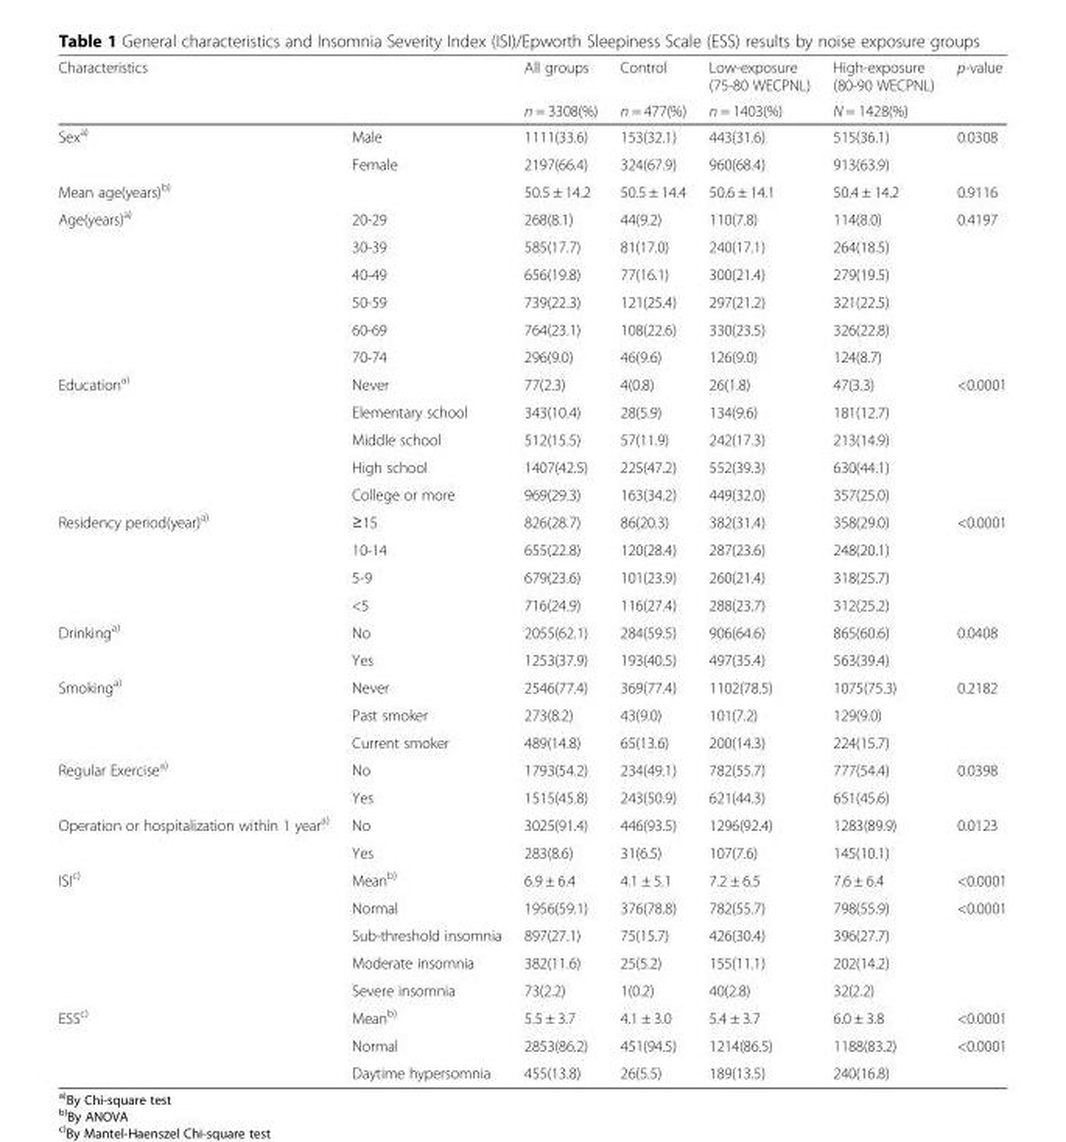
<table><thead><tr><td rowspan="2">Characteristics</td><td rowspan="2"></td><td rowspan="2">All groups n = 3308(%)</td><td rowspan="2">Control n = 477(%)</td><td rowspan="2">Low-exposure (75-80 WECPNL) n = 1403(%)</td><td rowspan="2">High-exposure (80-90 WECPNL) N = 1428(%)</td><td rowspan="2">p-value</td></tr><tr></tr></thead><tbody><tr><td rowspan="2">Sex<sup>a)</sup></td><td>Male</td><td>1111(33.6)</td><td>153(32.1)</td><td>443(31.6)</td><td>515(36.1)</td><td>0.0308</td></tr><tr><td>Female</td><td>2197(66.4)</td><td>324(67.9)</td><td>960(68.4)</td><td>913(63.9)</td><td></td></tr><tr><td>Mean age(years)<sup>b)</sup></td><td></td><td>50.5 ± 14.2</td><td>50.5 ± 14.4</td><td>50.6 ± 14.1</td><td>50.4 ± 14.2</td><td>0.9116</td></tr><tr><td rowspan="6">Age(years)<sup>a)</sup></td><td>20-29</td><td>268(8.1)</td><td>44(9.2)</td><td>110(7.8)</td><td>114(8.0)</td><td>0.4197</td></tr><tr><td>30-39</td><td>585(17.7)</td><td>81(17.0)</td><td>240(17.1)</td><td>264(18.5)</td><td></td></tr><tr><td>40-49</td><td>656(19.8)</td><td>77(16.1)</td><td>300(21.4)</td><td>279(19.5)</td><td></td></tr><tr><td>50-59</td><td>739(22.3)</td><td>121(25.4)</td><td>297(21.2)</td><td>321(22.5)</td><td></td></tr><tr><td>60-69</td><td>764(23.1)</td><td>108(22.6)</td><td>330(23.5)</td><td>326(22.8)</td><td></td></tr><tr><td>70-74</td><td>296(9.0)</td><td>46(9.6)</td><td>126(9.0)</td><td>124(8.7)</td><td></td></tr><tr><td rowspan="5">Education<sup>a)</sup></td><td>Never</td><td>77(2.3)</td><td>4(0.8)</td><td>26(1.8)</td><td>47(3.3)</td><td>&lt;0.0001</td></tr><tr><td>Elementary school</td><td>343(10.4)</td><td>28(5.9)</td><td>134(9.6)</td><td>181(12.7)</td><td></td></tr><tr><td>Middle school</td><td>512(15.5)</td><td>57(11.9)</td><td>242(17.3)</td><td>213(14.9)</td><td></td></tr><tr><td>High school</td><td>1407(42.5)</td><td>225(47.2)</td><td>552(39.3)</td><td>630(44.1)</td><td></td></tr><tr><td>College or more</td><td>969(29.3)</td><td>163(34.2)</td><td>449(32.0)</td><td>357(25.0)</td><td></td></tr><tr><td rowspan="4">Residency period(year)<sup>a)</sup></td><td>≥15</td><td>826(28.7)</td><td>86(20.3)</td><td>382(31.4)</td><td>358(29.0)</td><td>&lt;0.0001</td></tr><tr><td>10-14</td><td>655(22.8)</td><td>120(28.4)</td><td>287(23.6)</td><td>248(20.1)</td><td></td></tr><tr><td>5-9</td><td>679(23.6)</td><td>101(23.9)</td><td>260(21.4)</td><td>318(25.7)</td><td></td></tr><tr><td>&lt;5</td><td>716(24.9)</td><td>116(27.4)</td><td>288(23.7)</td><td>312(25.2)</td><td></td></tr><tr><td rowspan="2">Drinking<sup>a)</sup></td><td>No</td><td>2055(62.1)</td><td>284(59.5)</td><td>906(64.6)</td><td>865(60.6)</td><td>0.0408</td></tr><tr><td>Yes</td><td>1253(37.9)</td><td>193(40.5)</td><td>497(35.4)</td><td>563(39.4)</td><td></td></tr><tr><td rowspan="3">Smoking<sup>a)</sup></td><td>Never</td><td>2546(77.4)</td><td>369(77.4)</td><td>1102(78.5)</td><td>1075(75.3)</td><td>0.2182</td></tr><tr><td>Past smoker</td><td>273(8.2)</td><td>43(9.0)</td><td>101(7.2)</td><td>129(9.0)</td><td></td></tr><tr><td>Current smoker</td><td>489(14.8)</td><td>65(13.6)</td><td>200(14.3)</td><td>224(15.7)</td><td></td></tr><tr><td rowspan="2">Regular Exercise<sup>a)</sup></td><td>No</td><td>1793(54.2)</td><td>234(49.1)</td><td>782(55.7)</td><td>777(54.4)</td><td>0.0398</td></tr><tr><td>Yes</td><td>1515(45.8)</td><td>243(50.9)</td><td>621(44.3)</td><td>651(45.6)</td><td></td></tr><tr><td rowspan="2">Operation or hospitalization within 1 year<sup>a)</sup></td><td>No</td><td>3025(91.4)</td><td>446(93.5)</td><td>1296(92.4)</td><td>1283(89.9)</td><td>0.0123</td></tr><tr><td>Yes</td><td>283(8.6)</td><td>31(6.5)</td><td>107(7.6)</td><td>145(10.1)</td><td></td></tr><tr><td rowspan="5">ISI<sup>c)</sup></td><td>Mean<sup>b)</sup></td><td>6.9 ± 6.4</td><td>4.1 ± 5.1</td><td>7.2 ± 6.5</td><td>7.6 ± 6.4</td><td>&lt;0.0001</td></tr><tr><td>Normal</td><td>1956(59.1)</td><td>376(78.8)</td><td>782(55.7)</td><td>798(55.9)</td><td>&lt;0.0001</td></tr><tr><td>Sub-threshold insomnia</td><td>897(27.1)</td><td>75(15.7)</td><td>426(30.4)</td><td>396(27.7)</td><td></td></tr><tr><td>Moderate insomnia</td><td>382(11.6)</td><td>25(5.2)</td><td>155(11.1)</td><td>202(14.2)</td><td></td></tr><tr><td>Severe insomnia</td><td>73(2.2)</td><td>1(0.2)</td><td>40(2.8)</td><td>32(2.2)</td><td></td></tr><tr><td rowspan="3">ESS<sup>c)</sup></td><td>Mean<sup>b)</sup></td><td>5.5 ± 3.7</td><td>4.1 ± 3.0</td><td>5.4 ± 3.7</td><td>6.0 ± 3.8</td><td>&lt;0.0001</td></tr><tr><td>Normal</td><td>2853(86.2)</td><td>451(94.5)</td><td>1214(86.5)</td><td>1188(83.2)</td><td>&lt;0.0001</td></tr><tr><td>Daytime hypersomnia</td><td>455(13.8)</td><td>26(5.5)</td><td>189(13.5)</td><td>240(16.8)</td><td></td></tr></tbody></table>